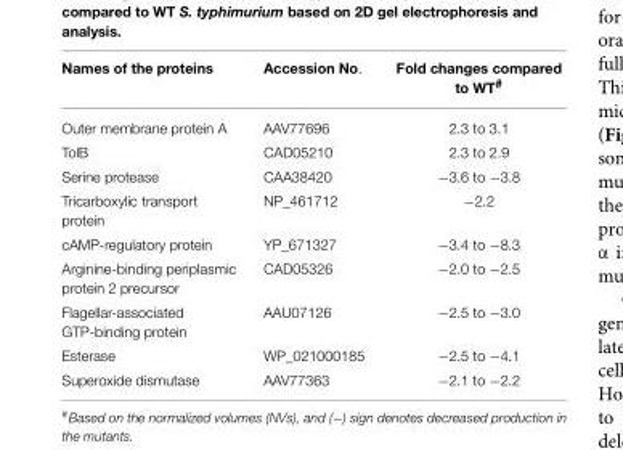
<table><thead><tr><td>Names of the proteins</td><td>Accession No.</td><td>Fold changes compared to WT<sup>#</sup></td></tr></thead><tbody><tr><td>Outer membrane protein A</td><td>AAV77696</td><td>2.3 to 3.1</td></tr><tr><td>TolB</td><td>CAD05210</td><td>2.3 to 2.9</td></tr><tr><td>Serine protease</td><td>CAA38420</td><td>−3.6 to −3.8</td></tr><tr><td>Tricarboxylic transport protein</td><td>NP_461712</td><td>−2.2</td></tr><tr><td>cAMP-regulatory protein</td><td>YP_671327</td><td>−3.4 to −8.3</td></tr><tr><td>Arginine-binding periplasmic protein 2 precursor</td><td>CAD05326</td><td>−2.0 to −2.5</td></tr><tr><td>Flagellar-associated GTP-binding protein</td><td>AAU07126</td><td>−2.5 to −3.0</td></tr><tr><td>Esterase</td><td>WP_021000185</td><td>−2.5 to −4.1</td></tr><tr><td>Superoxide dismutase</td><td>AAV77363</td><td>−2.1 to −2.2</td></tr></tbody></table>